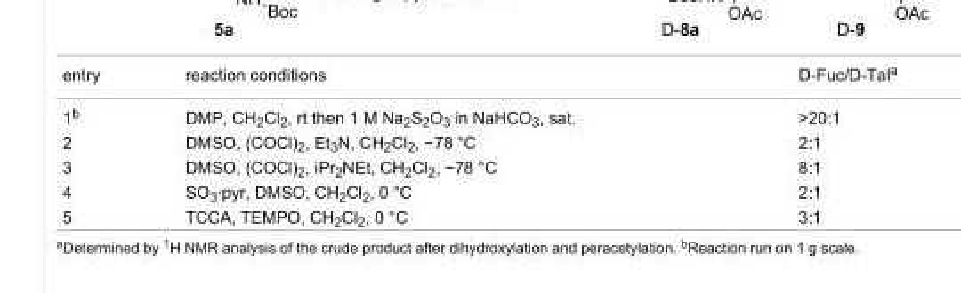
<table><tbody><tr><td>entry</td><td>reaction conditions</td><td>D-Fuc/D-Tal<sup>a</sup></td></tr><tr><td>1<sup>b</sup></td><td>DMP, CH<sub>2</sub>Cl<sub>2</sub>, rt then 1 M Na<sub>2</sub>S<sub>2</sub>O<sub>3</sub> in NaHCO<sub>3</sub>, sat.</td><td>&gt;20:1</td></tr><tr><td>2</td><td>DMSO, (COCl)<sub>2</sub>, Et<sub>3</sub>N, CH<sub>2</sub>Cl<sub>2</sub>, −78 °C</td><td>2:1</td></tr><tr><td>3</td><td>DMSO, (COCl)<sub>2</sub>, iPr<sub>2</sub>NEt, CH<sub>2</sub>Cl<sub>2</sub>, −78 °C</td><td>8:1</td></tr><tr><td>4</td><td>SO<sub>3</sub>·pyr, DMSO, CH<sub>2</sub>Cl<sub>2</sub>, 0 °C</td><td>2:1</td></tr><tr><td>5</td><td>TCCA, TEMPO, CH<sub>2</sub>Cl<sub>2</sub>, 0 °C</td><td>3:1</td></tr></tbody></table>